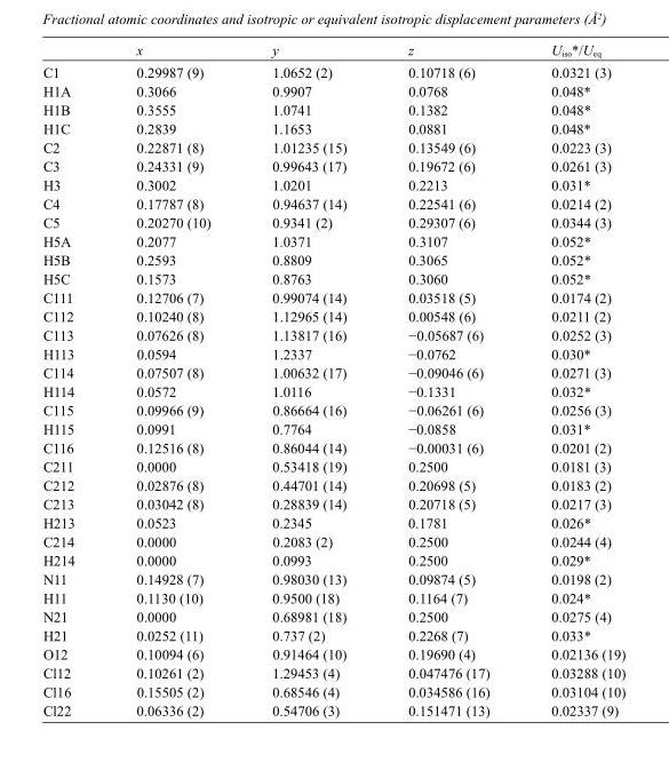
<table><thead><tr><td></td><td>x</td><td>y</td><td>z</td><td>U<sub>iso</sub>*/U<sub>eq</sub></td></tr></thead><tbody><tr><td>C1</td><td>0.29987 (9)</td><td>1.0652 (2)</td><td>0.10718 (6)</td><td>0.0321 (3)</td></tr><tr><td>H1A</td><td>0.3066</td><td>0.9907</td><td>0.0768</td><td>0.048*</td></tr><tr><td>H1B</td><td>0.3555</td><td>1.0741</td><td>0.1382</td><td>0.048*</td></tr><tr><td>H1C</td><td>0.2839</td><td>1.1653</td><td>0.0881</td><td>0.048*</td></tr><tr><td>C2</td><td>0.22871 (8)</td><td>1.01235 (15)</td><td>0.13549 (6)</td><td>0.0223 (3)</td></tr><tr><td>C3</td><td>0.24331 (9)</td><td>0.99643 (17)</td><td>0.19672 (6)</td><td>0.0261 (3)</td></tr><tr><td>H3</td><td>0.3002</td><td>1.0201</td><td>0.2213</td><td>0.031*</td></tr><tr><td>C4</td><td>0.17787 (8)</td><td>0.94637 (14)</td><td>0.22541 (6)</td><td>0.0214 (2)</td></tr><tr><td>C5</td><td>0.20270 (10)</td><td>0.9341 (2)</td><td>0.29307 (6)</td><td>0.0344 (3)</td></tr><tr><td>H5A</td><td>0.2077</td><td>1.0371</td><td>0.3107</td><td>0.052*</td></tr><tr><td>H5B</td><td>0.2593</td><td>0.8809</td><td>0.3065</td><td>0.052*</td></tr><tr><td>H5C</td><td>0.1573</td><td>0.8763</td><td>0.3060</td><td>0.052*</td></tr><tr><td>C111</td><td>0.12706 (7)</td><td>0.99074 (14)</td><td>0.03518 (5)</td><td>0.0174 (2)</td></tr><tr><td>C112</td><td>0.10240 (8)</td><td>1.12965 (14)</td><td>0.00548 (6)</td><td>0.0211 (2)</td></tr><tr><td>C113</td><td>0.07626 (8)</td><td>1.13817 (16)</td><td>−0.05687 (6)</td><td>0.0252 (3)</td></tr><tr><td>H113</td><td>0.0594</td><td>1.2337</td><td>−0.0762</td><td>0.030*</td></tr><tr><td>C114</td><td>0.07507 (8)</td><td>1.00632 (17)</td><td>−0.09046 (6)</td><td>0.0271 (3)</td></tr><tr><td>H114</td><td>0.0572</td><td>1.0116</td><td>−0.1331</td><td>0.032*</td></tr><tr><td>C115</td><td>0.09966 (9)</td><td>0.86664 (16)</td><td>−0.06261 (6)</td><td>0.0256 (3)</td></tr><tr><td>H115</td><td>0.0991</td><td>0.7764</td><td>−0.0858</td><td>0.031*</td></tr><tr><td>C116</td><td>0.12516 (8)</td><td>0.86044 (14)</td><td>−0.00031 (6)</td><td>0.0201 (2)</td></tr><tr><td>C211</td><td>0.0000</td><td>0.53418 (19)</td><td>0.2500</td><td>0.0181 (3)</td></tr><tr><td>C212</td><td>0.02876 (8)</td><td>0.44701 (14)</td><td>0.20698 (5)</td><td>0.0183 (2)</td></tr><tr><td>C213</td><td>0.03042 (8)</td><td>0.28839 (14)</td><td>0.20718 (5)</td><td>0.0217 (3)</td></tr><tr><td>H213</td><td>0.0523</td><td>0.2345</td><td>0.1781</td><td>0.026*</td></tr><tr><td>C214</td><td>0.0000</td><td>0.2083 (2)</td><td>0.2500</td><td>0.0244 (4)</td></tr><tr><td>H214</td><td>0.0000</td><td>0.0993</td><td>0.2500</td><td>0.029*</td></tr><tr><td>N11</td><td>0.14928 (7)</td><td>0.98030 (13)</td><td>0.09874 (5)</td><td>0.0198 (2)</td></tr><tr><td>H11</td><td>0.1130 (10)</td><td>0.9500 (18)</td><td>0.1164 (7)</td><td>0.024*</td></tr><tr><td>N21</td><td>0.0000</td><td>0.68981 (18)</td><td>0.2500</td><td>0.0275 (4)</td></tr><tr><td>H21</td><td>0.0252 (11)</td><td>0.737 (2)</td><td>0.2268 (7)</td><td>0.033*</td></tr><tr><td>O12</td><td>0.10094 (6)</td><td>0.91464 (10)</td><td>0.19690 (4)</td><td>0.02136 (19)</td></tr><tr><td>Cl12</td><td>0.10261 (2)</td><td>1.29453 (4)</td><td>0.047476 (17)</td><td>0.03288 (10)</td></tr><tr><td>Cl16</td><td>0.15505 (2)</td><td>0.68546 (4)</td><td>0.034586 (16)</td><td>0.03104 (10)</td></tr><tr><td>Cl22</td><td>0.06336 (2)</td><td>0.54706 (3)</td><td>0.151471 (13)</td><td>0.02337 (9)</td></tr></tbody></table>